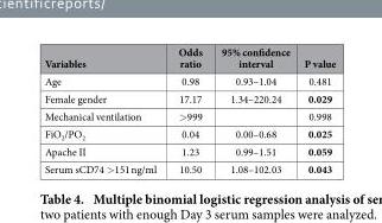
<table><thead><tr><td>Variables</td><td>Odds ratio</td><td>95% confidence interval</td><td>P value</td></tr></thead><tbody><tr><td>Age</td><td>0.98</td><td>0.93–1.04</td><td>0.481</td></tr><tr><td>Female gender</td><td>17.17</td><td>1.34–220.24</td><td>0.029</td></tr><tr><td>Mechanical ventilation</td><td>&gt; 999</td><td></td><td>0.998</td></tr><tr><td>FiO<sub>2</sub>/PO<sub>2</sub></td><td>0.04</td><td>0.00–0.68</td><td>0.025</td></tr><tr><td>Apache II</td><td>1.23</td><td>0.99–1.51</td><td>0.059</td></tr><tr><td>Serum sCD74 &gt; 151 ng/ml</td><td>10.50</td><td>1.08–102.03</td><td>0.043</td></tr></tbody></table>